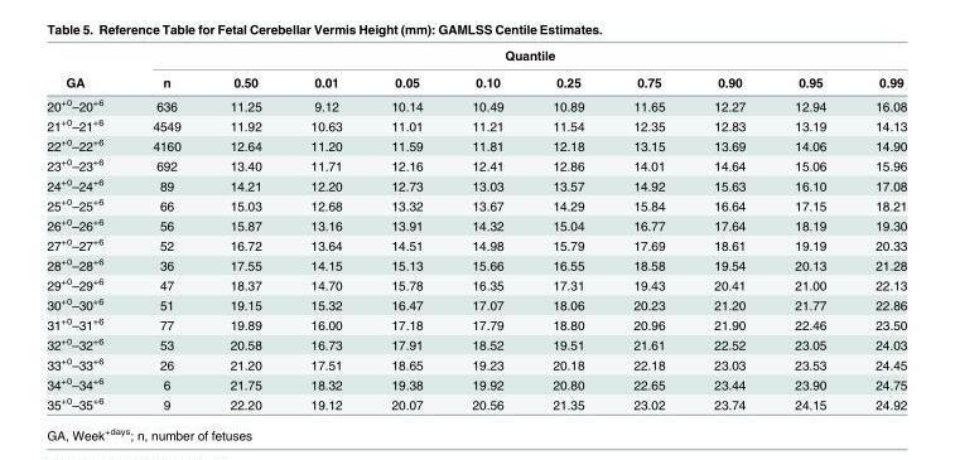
<table><thead><tr><td rowspan="2">GA</td><td colspan="10">Quantile</td></tr><tr><td>n</td><td>0.50</td><td>0.01</td><td>0.05</td><td>0.10</td><td>0.25</td><td>0.75</td><td>0.90</td><td>0.95</td><td>0.99</td></tr></thead><tbody><tr><td>20<sup>+0</sup>–20<sup>+6</sup></td><td>636</td><td>11.25</td><td>9.12</td><td>10.14</td><td>10.49</td><td>10.89</td><td>11.65</td><td>12.27</td><td>12.94</td><td>16.08</td></tr><tr><td>21<sup>+0</sup>–21<sup>+6</sup></td><td>4549</td><td>11.92</td><td>10.63</td><td>11.01</td><td>11.21</td><td>11.54</td><td>12.35</td><td>12.83</td><td>13.19</td><td>14.13</td></tr><tr><td>22<sup>+0</sup>–22<sup>+6</sup></td><td>4160</td><td>12.64</td><td>11.20</td><td>11.59</td><td>11.81</td><td>12.18</td><td>13.15</td><td>13.69</td><td>14.06</td><td>14.90</td></tr><tr><td>23<sup>+0</sup>–23<sup>+6</sup></td><td>692</td><td>13.40</td><td>11.71</td><td>12.16</td><td>12.41</td><td>12.86</td><td>14.01</td><td>14.64</td><td>15.06</td><td>15.96</td></tr><tr><td>24<sup>+0</sup>–24<sup>+6</sup></td><td>89</td><td>14.21</td><td>12.20</td><td>12.73</td><td>13.03</td><td>13.57</td><td>14.92</td><td>15.63</td><td>16.10</td><td>17.08</td></tr><tr><td>25<sup>+0</sup>–25<sup>+6</sup></td><td>66</td><td>15.03</td><td>12.68</td><td>13.32</td><td>13.67</td><td>14.29</td><td>15.84</td><td>16.64</td><td>17.15</td><td>18.21</td></tr><tr><td>26<sup>+0</sup>–26<sup>+6</sup></td><td>56</td><td>15.87</td><td>13.16</td><td>13.91</td><td>14.32</td><td>15.04</td><td>16.77</td><td>17.64</td><td>18.19</td><td>19.30</td></tr><tr><td>27<sup>+0</sup>–27<sup>+6</sup></td><td>52</td><td>16.72</td><td>13.64</td><td>14.51</td><td>14.98</td><td>15.79</td><td>17.69</td><td>18.61</td><td>19.19</td><td>20.33</td></tr><tr><td>28<sup>+0</sup>–28<sup>+6</sup></td><td>36</td><td>17.55</td><td>14.15</td><td>15.13</td><td>15.66</td><td>16.55</td><td>18.58</td><td>19.54</td><td>20.13</td><td>21.28</td></tr><tr><td>29<sup>+0</sup>–29<sup>+6</sup></td><td>47</td><td>18.37</td><td>14.70</td><td>15.78</td><td>16.35</td><td>17.31</td><td>19.43</td><td>20.41</td><td>21.00</td><td>22.13</td></tr><tr><td>30<sup>+0</sup>–30<sup>+6</sup></td><td>51</td><td>19.15</td><td>15.32</td><td>16.47</td><td>17.07</td><td>18.06</td><td>20.23</td><td>21.20</td><td>21.77</td><td>22.86</td></tr><tr><td>31<sup>+0</sup>–31<sup>+6</sup></td><td>77</td><td>19.89</td><td>16.00</td><td>17.18</td><td>17.79</td><td>18.80</td><td>20.96</td><td>21.90</td><td>22.46</td><td>23.50</td></tr><tr><td>32<sup>+0</sup>–32<sup>+6</sup></td><td>53</td><td>20.58</td><td>16.73</td><td>17.91</td><td>18.52</td><td>19.51</td><td>21.61</td><td>22.52</td><td>23.05</td><td>24.03</td></tr><tr><td>33<sup>+0</sup>–33<sup>+6</sup></td><td>26</td><td>21.20</td><td>17.51</td><td>18.65</td><td>19.23</td><td>20.18</td><td>22.18</td><td>23.03</td><td>23.53</td><td>24.45</td></tr><tr><td>34<sup>+0</sup>–34<sup>+6</sup></td><td>6</td><td>21.75</td><td>18.32</td><td>19.38</td><td>19.92</td><td>20.80</td><td>22.65</td><td>23.44</td><td>23.90</td><td>24.75</td></tr><tr><td>35<sup>+0</sup>–35<sup>+6</sup></td><td>9</td><td>22.20</td><td>19.12</td><td>20.07</td><td>20.56</td><td>21.35</td><td>23.02</td><td>23.74</td><td>24.15</td><td>24.92</td></tr></tbody></table>